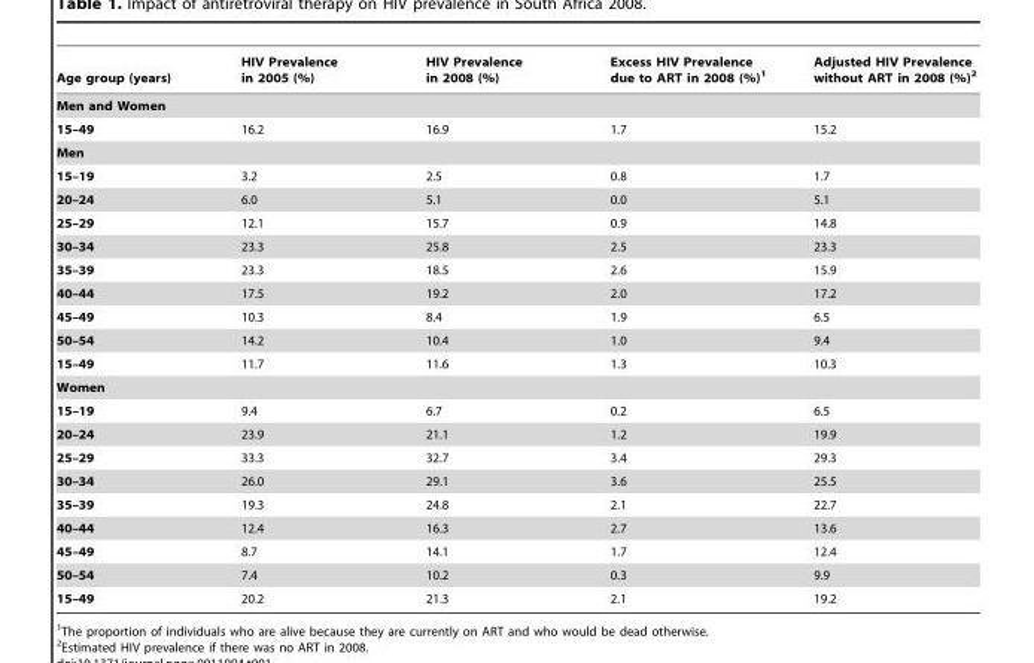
<table><thead><tr><td>Age group (years)</td><td>HIV Prevalence in 2005 (%)</td><td>HIV Prevalence in 2008 (%)</td><td>Excess HIV Prevalence due to ART in 2008 (%)<sup>1</sup></td><td>Adjusted HIV Prevalence without ART in 2008 (%)<sup>2</sup></td></tr></thead><tbody><tr><td colspan="5">Men and Women</td></tr><tr><td>15–49</td><td>16.2</td><td>16.9</td><td>1.7</td><td>15.2</td></tr><tr><td colspan="5">Men</td></tr><tr><td>15–19</td><td>3.2</td><td>2.5</td><td>0.8</td><td>1.7</td></tr><tr><td>20–24</td><td>6.0</td><td>5.1</td><td>0.0</td><td>5.1</td></tr><tr><td>25–29</td><td>12.1</td><td>15.7</td><td>0.9</td><td>14.8</td></tr><tr><td>30–34</td><td>23.3</td><td>25.8</td><td>2.5</td><td>23.3</td></tr><tr><td>35–39</td><td>23.3</td><td>18.5</td><td>2.6</td><td>15.9</td></tr><tr><td>40–44</td><td>17.5</td><td>19.2</td><td>2.0</td><td>17.2</td></tr><tr><td>45–49</td><td>10.3</td><td>8.4</td><td>1.9</td><td>6.5</td></tr><tr><td>50–54</td><td>14.2</td><td>10.4</td><td>1.0</td><td>9.4</td></tr><tr><td>15–49</td><td>11.7</td><td>11.6</td><td>1.3</td><td>10.3</td></tr><tr><td colspan="5">Women</td></tr><tr><td>15–19</td><td>9.4</td><td>6.7</td><td>0.2</td><td>6.5</td></tr><tr><td>20–24</td><td>23.9</td><td>21.1</td><td>1.2</td><td>19.9</td></tr><tr><td>25–29</td><td>33.3</td><td>32.7</td><td>3.4</td><td>29.3</td></tr><tr><td>30–34</td><td>26.0</td><td>29.1</td><td>3.6</td><td>25.5</td></tr><tr><td>35–39</td><td>19.3</td><td>24.8</td><td>2.1</td><td>22.7</td></tr><tr><td>40–44</td><td>12.4</td><td>16.3</td><td>2.7</td><td>13.6</td></tr><tr><td>45–49</td><td>8.7</td><td>14.1</td><td>1.7</td><td>12.4</td></tr><tr><td>50–54</td><td>7.4</td><td>10.2</td><td>0.3</td><td>9.9</td></tr><tr><td>15–49</td><td>20.2</td><td>21.3</td><td>2.1</td><td>19.2</td></tr></tbody></table>